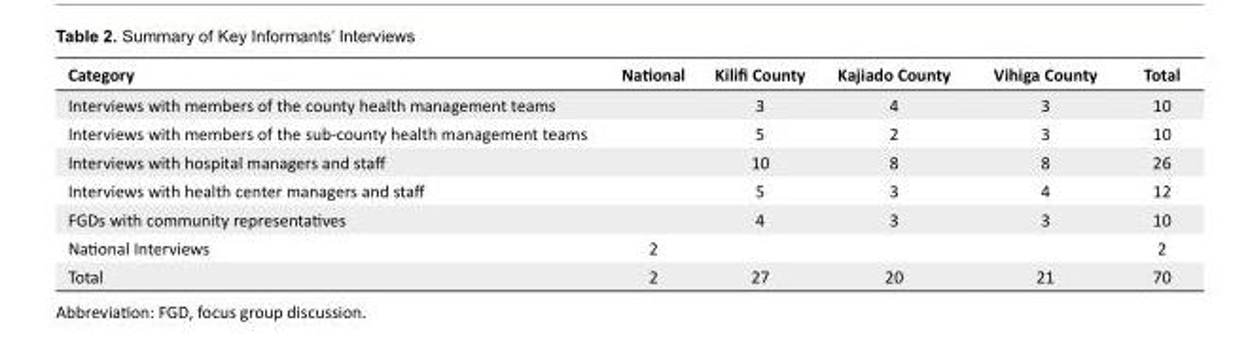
<table><tbody><tr><td>Category</td><td>National</td><td>Kilifi County</td><td>Kajiado County</td><td>Vihiga County</td><td>Total</td></tr><tr><td>Interviews with members of the county health management teams</td><td></td><td>3</td><td>4</td><td>3</td><td>10</td></tr><tr><td>Interviews with members of the sub-county health management teams</td><td></td><td>5</td><td>2</td><td>3</td><td>10</td></tr><tr><td>Interviews with hospital managers and staff</td><td></td><td>10</td><td>8</td><td>8</td><td>26</td></tr><tr><td>Interviews with health center managers and staff</td><td></td><td>5</td><td>3</td><td>4</td><td>12</td></tr><tr><td>FGDs with community representatives</td><td></td><td>4</td><td>3</td><td>3</td><td>10</td></tr><tr><td>National Interviews</td><td>2</td><td></td><td></td><td></td><td>2</td></tr><tr><td>Total</td><td>2</td><td>27</td><td>20</td><td>21</td><td>70</td></tr></tbody></table>